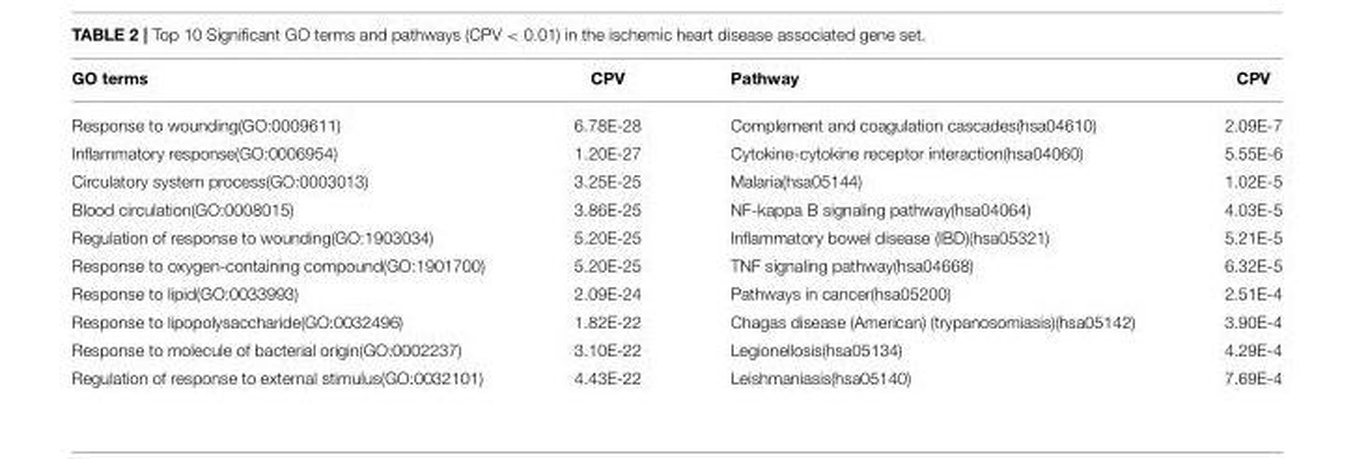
<table><thead><tr><td>GO terms</td><td>CPV</td><td>Pathway</td><td>CPV</td></tr></thead><tbody><tr><td>Response to wounding(GO:0009611)</td><td>6.78E-28</td><td>Complement and coagulation cascades(hsa04610)</td><td>2.09E-7</td></tr><tr><td>Inflammatory response(GO:0006954)</td><td>1.20E-27</td><td>Cytokine-cytokine receptor interaction(hsa04060)</td><td>5.55E-6</td></tr><tr><td>Circulatory system process(GO:0003013)</td><td>3.25E-25</td><td>Malaria(hsa05144)</td><td>1.02E-5</td></tr><tr><td>Blood circulation(GO:0008015)</td><td>3.86E-25</td><td>NF-kappa B signaling pathway(hsa04064)</td><td>4.03E-5</td></tr><tr><td>Regulation of response to wounding(GO:1903034)</td><td>5.20E-25</td><td>Inflammatory bowel disease (IBD)(hsa05321)</td><td>5.21E-5</td></tr><tr><td>Response to oxygen-containing compound(GO:1901700)</td><td>5.20E-25</td><td>TNF signaling pathway(hsa04668)</td><td>6.32E-5</td></tr><tr><td>Response to lipid(GO:0033993)</td><td>2.09E-24</td><td>Pathways in cancer(hsa05200)</td><td>2.51E-4</td></tr><tr><td>Response to lipopolysaccharide(GO:0032496)</td><td>1.82E-22</td><td>Chagas disease (American) (trypanosomiasis)(hsa05142)</td><td>3.90E-4</td></tr><tr><td>Response to molecule of bacterial origin(GO:0002237)</td><td>3.10E-22</td><td>Legionellosis(hsa05134)</td><td>4.29E-4</td></tr><tr><td>Regulation of response to external stimulus(GO:0032101)</td><td>4.43E-22</td><td>Leishmaniasis(hsa05140)</td><td>7.69E-4</td></tr></tbody></table>